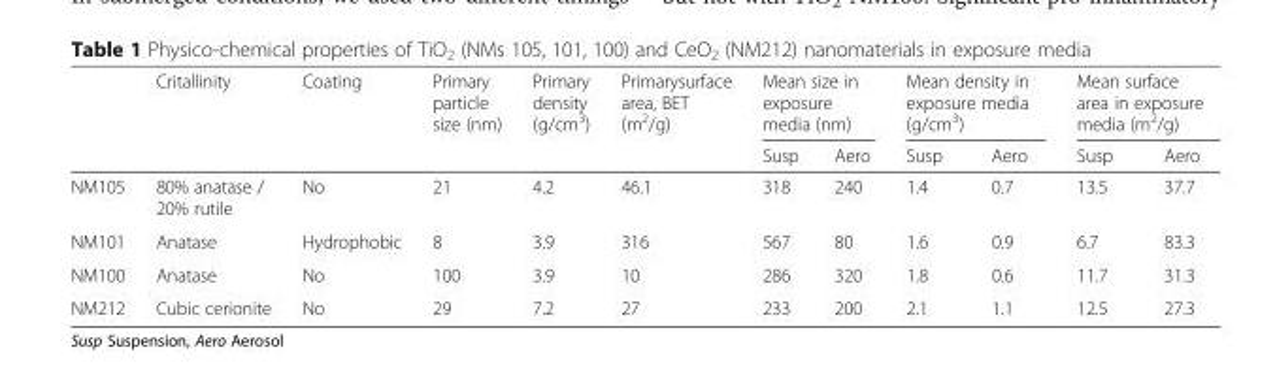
<table><thead><tr><td rowspan="2"></td><td rowspan="2">Critallinity</td><td rowspan="2">Coating</td><td rowspan="2">Primary particle size (nm)</td><td rowspan="2">Primary density (g/cm<sup>3</sup>)</td><td rowspan="2">Primarysurface area, BET (m<sup>2</sup>/g)</td><td colspan="2">Mean size in exposure media (nm)</td><td colspan="2">Mean density in exposure media (g/cm<sup>3</sup>)</td><td colspan="2">Mean surface area in exposure media (m<sup>2</sup>/g)</td></tr><tr><td>Susp</td><td>Aero</td><td>Susp</td><td>Aero</td><td>Susp</td><td>Aero</td></tr></thead><tbody><tr><td>NM105</td><td>80% anatase / 20% rutile</td><td>No</td><td>21</td><td>4.2</td><td>46.1</td><td>318</td><td>240</td><td>1.4</td><td>0.7</td><td>13.5</td><td>37.7</td></tr><tr><td>NM101</td><td>Anatase</td><td>Hydrophobic</td><td>8</td><td>3.9</td><td>316</td><td>567</td><td>80</td><td>1.6</td><td>0.9</td><td>6.7</td><td>83.3</td></tr><tr><td>NM100</td><td>Anatase</td><td>No</td><td>100</td><td>3.9</td><td>10</td><td>286</td><td>320</td><td>1.8</td><td>0.6</td><td>11.7</td><td>31.3</td></tr><tr><td>NM212</td><td>Cubic cerionite</td><td>No</td><td>29</td><td>7.2</td><td>27</td><td>233</td><td>200</td><td>2.1</td><td>1.1</td><td>12.5</td><td>27.3</td></tr></tbody></table>